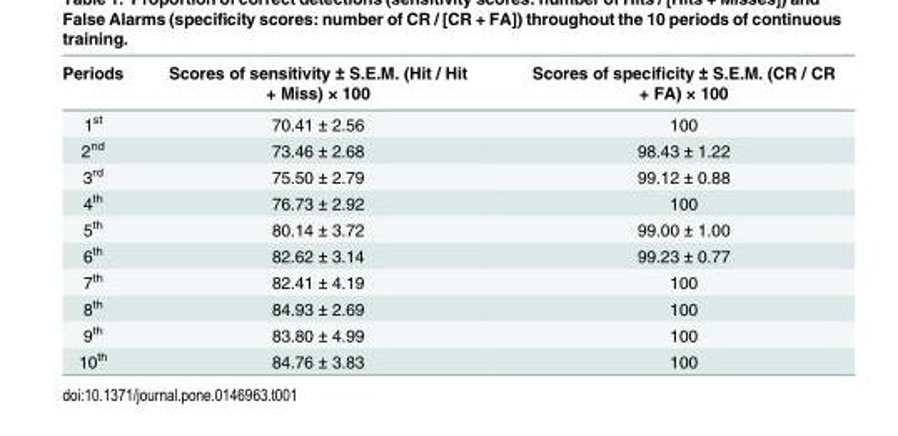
<table><thead><tr><td>Periods</td><td>Scores of sensitivity ± S.E.M. (Hit / Hit + Miss) × 100</td><td>Scores of specificity ± S.E.M. (CR / CR + FA) × 100</td></tr></thead><tbody><tr><td>1<sup>st</sup></td><td>70.41 ± 2.56</td><td>100</td></tr><tr><td>2<sup>nd</sup></td><td>73.46 ± 2.68</td><td>98.43 ± 1.22</td></tr><tr><td>3<sup>rd</sup></td><td>75.50 ± 2.79</td><td>99.12 ± 0.88</td></tr><tr><td>4<sup>th</sup></td><td>76.73 ± 2.92</td><td>100</td></tr><tr><td>5<sup>th</sup></td><td>80.14 ± 3.72</td><td>99.00 ± 1.00</td></tr><tr><td>6<sup>th</sup></td><td>82.62 ± 3.14</td><td>99.23 ± 0.77</td></tr><tr><td>7<sup>th</sup></td><td>82.41 ± 4.19</td><td>100</td></tr><tr><td>8<sup>th</sup></td><td>84.93 ± 2.69</td><td>100</td></tr><tr><td>9<sup>th</sup></td><td>83.80 ± 4.99</td><td>100</td></tr><tr><td>10<sup>th</sup></td><td>84.76 ± 3.83</td><td>100</td></tr></tbody></table>